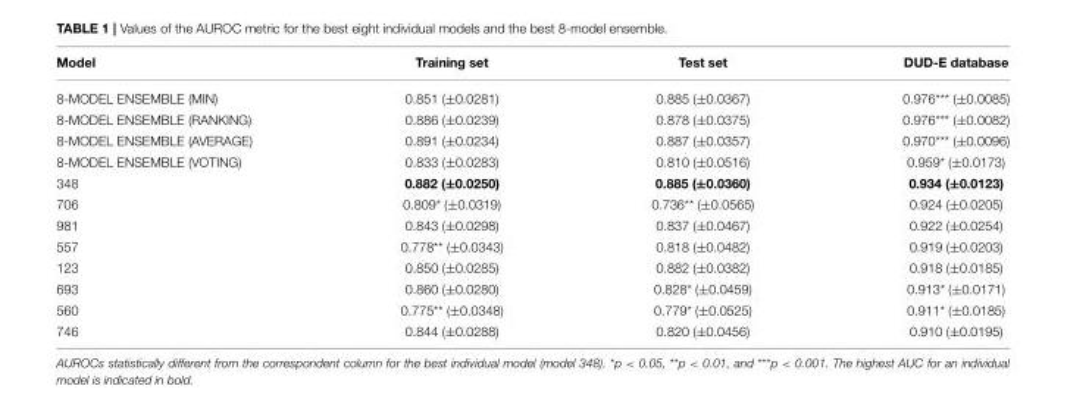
<table><thead><tr><td>Model</td><td>Training set</td><td>Test set</td><td>DUD-E database</td></tr></thead><tbody><tr><td>8-MODEL ENSEMBLE (MIN)</td><td>0.851 (±0.0281)</td><td>0.885 (±0.0367)</td><td>0.976*** (±0.0085)</td></tr><tr><td>8-MODEL ENSEMBLE (RANKING)</td><td>0.886 (±0.0239)</td><td>0.878 (±0.0375)</td><td>0.976*** (±0.0082)</td></tr><tr><td>8-MODEL ENSEMBLE (AVERAGE)</td><td>0.891 (±0.0234)</td><td>0.887 (±0.0357)</td><td>0.970*** (±0.0096)</td></tr><tr><td>8-MODEL ENSEMBLE (VOTING)</td><td>0.833 (±0.0283)</td><td>0.810 (±0.0516)</td><td>0.959* (±0.0173)</td></tr><tr><td>348</td><td>0.882 (±0.0250)</td><td>0.885 (±0.0360)</td><td>0.934 (±0.0123)</td></tr><tr><td>706</td><td>0.809* (±0.0319)</td><td>0.736** (±0.0565)</td><td>0.924 (±0.0205)</td></tr><tr><td>981</td><td>0.843 (±0.0298)</td><td>0.837 (±0.0467)</td><td>0.922 (±0.0254)</td></tr><tr><td>557</td><td>0.778** (±0.0343)</td><td>0.818 (±0.0482)</td><td>0.919 (±0.0203)</td></tr><tr><td>123</td><td>0.850 (±0.0285)</td><td>0.882 (±0.0382)</td><td>0.918 (±0.0185)</td></tr><tr><td>693</td><td>0.860 (±0.0280)</td><td>0.828* (±0.0459)</td><td>0.913* (±0.0171)</td></tr><tr><td>560</td><td>0.775** (±0.0348)</td><td>0.779* (±0.0525)</td><td>0.911* (±0.0185)</td></tr><tr><td>746</td><td>0.844 (±0.0288)</td><td>0.820 (±0.0456)</td><td>0.910 (±0.0195)</td></tr></tbody></table>